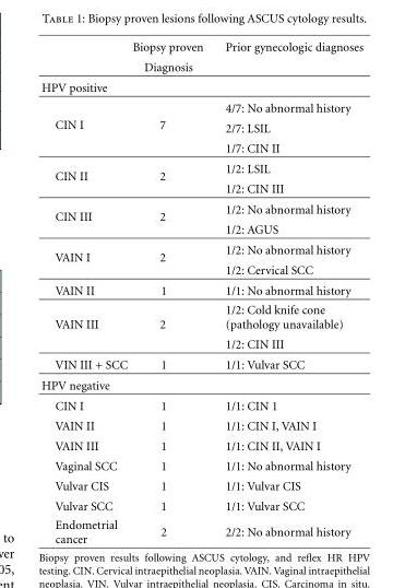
<table><thead><tr><td rowspan="2"></td><td rowspan="2">Biopsy proven Diagnosis</td><td rowspan="2">Prior gynecologic diagnoses</td></tr><tr></tr></thead><tbody><tr><td colspan="3">HPV positive</td></tr><tr><td rowspan="3">CIN I</td><td rowspan="3">7</td><td>4/7: No abnormal history</td></tr><tr><td>2/7: LSIL</td></tr><tr><td>1/7: CIN II</td></tr><tr><td rowspan="2">CIN II</td><td rowspan="2">2</td><td>1/2: LSIL</td></tr><tr><td>1/2: CIN III</td></tr><tr><td rowspan="2">CIN III</td><td rowspan="2">2</td><td>1/2: No abnormal history</td></tr><tr><td>1/2: AGUS</td></tr><tr><td rowspan="2">VAIN I</td><td rowspan="2">2</td><td>1/2: No abnormal history</td></tr><tr><td>1/2: Cervical SCC</td></tr><tr><td>VAIN II</td><td>1</td><td>1/1: No abnormal history</td></tr><tr><td rowspan="2">VAIN III</td><td rowspan="2">2</td><td>1/2: Cold knife cone (pathology unavailable)</td></tr><tr><td>1/2: CIN III</td></tr><tr><td>VIN III + SCC</td><td>1</td><td>1/1: Vulvar SCC</td></tr><tr><td colspan="3">HPV negative</td></tr><tr><td>CIN I</td><td>1</td><td>1/1: CIN 1</td></tr><tr><td>VAIN II</td><td>1</td><td>1/1: CIN I, VAIN I</td></tr><tr><td>VAIN III</td><td>1</td><td>1/1: CIN II, VAIN I</td></tr><tr><td>Vaginal SCC</td><td>1</td><td>1/1: No abnormal history</td></tr><tr><td>Vulvar CIS</td><td>1</td><td>1/1: Vulvar CIS</td></tr><tr><td>Vulvar SCC</td><td>1</td><td>1/1: Vulvar SCC</td></tr><tr><td>Endometrial cancer</td><td>2</td><td>2/2: No abnormal history</td></tr></tbody></table>